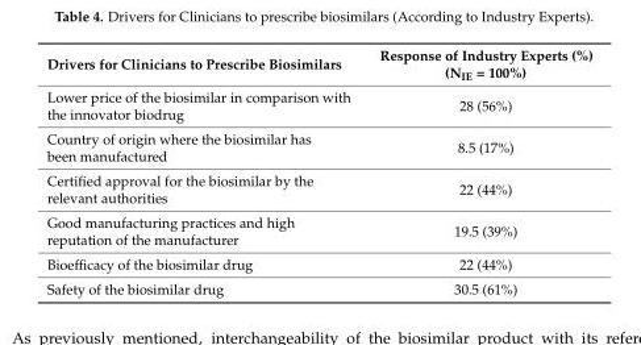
<table><thead><tr><td>Drivers for Clinicians to Prescribe Biosimilars</td><td>Response of Industry Experts (%) (N<sub>IE</sub> = 100%)</td></tr></thead><tbody><tr><td>Lower price of the biosimilar in comparison with the innovator biodrug</td><td>28 (56%)</td></tr><tr><td>Country of origin where the biosimilar has been manufactured</td><td>8.5 (17%)</td></tr><tr><td>Certified approval for the biosimilar by the relevant authorities</td><td>22 (44%)</td></tr><tr><td>Good manufacturing practices and high reputation of the manufacturer</td><td>19.5 (39%)</td></tr><tr><td>Bioefficacy of the biosimilar drug</td><td>22 (44%)</td></tr><tr><td>Safety of the biosimilar drug</td><td>30.5 (61%)</td></tr></tbody></table>